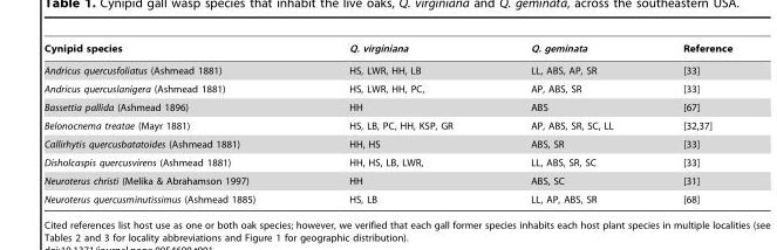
<table><thead><tr><td>Cynipid species</td><td>Q. virginiana</td><td>Q. geminata</td><td>Reference</td></tr></thead><tbody><tr><td>Andricus quercusfoliatus (Ashmead 1881)</td><td>HS, LWR, HH, LB</td><td>LL, ABS, AP, SR</td><td>[33]</td></tr><tr><td>Andricus quercuslanigera (Ashmead 1881)</td><td>HS, LWR, HH, PC,</td><td>AP, ABS, SR</td><td>[33]</td></tr><tr><td>Bassettia pallida (Ashmead 1896)</td><td>HH</td><td>ABS</td><td>[67]</td></tr><tr><td>Belonocnema treatae (Mayr 1881)</td><td>HS, LB, PC, HH, KSP, GR</td><td>AP, ABS, SR, SC, LL</td><td>[32,37]</td></tr><tr><td>Callirhytis quercusbatatoides (Ashmead 1881)</td><td>HH, HS</td><td>ABS, SR</td><td>[33]</td></tr><tr><td>Disholcaspis quercusvirens (Ashmead 1881)</td><td>HH, HS, LB, LWR,</td><td>LL, ABS, SR, SC</td><td>[33]</td></tr><tr><td>Neuroterus christi (Melika &amp; Abrahamson 1997)</td><td>HH</td><td>ABS, SC</td><td>[31]</td></tr><tr><td>Neuroterus quercusminutissimus (Ashmead 1885)</td><td>HS, LB</td><td>LL, AP, ABS, SR</td><td>[68]</td></tr></tbody></table>